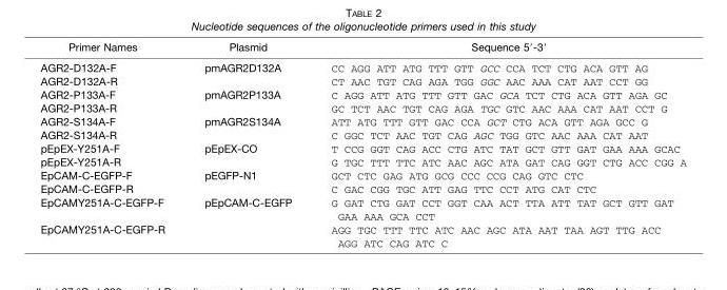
<table><thead><tr><td>Primer Names</td><td>Plasmid</td><td>Sequence 5′-3′</td></tr></thead><tbody><tr><td>AGR2-D132A-F</td><td>pmAGR2D132A</td><td>CC AGG ATT ATG TTT GTT GCC CCA TCT CTG ACA GTT AG</td></tr><tr><td>AGR2-D132A-R</td><td></td><td>CT AAC TGT CAG AGA TGG GGC AAC AAA CAT AAT CCT GG</td></tr><tr><td>AGR2-P133A-F</td><td>pmAGR2P133A</td><td>C AGG ATT ATG TTT GTT GAC GCA TCT CTG ACA GTT AGA GC</td></tr><tr><td>AGR2-P133A-R</td><td></td><td>GC TCT AAC TGT CAG AGA TGC GTC AAC AAA CAT AAT CCT G</td></tr><tr><td>AGR2-S134A-F</td><td>pmAGR2S134A</td><td>ATT ATG TTT GTT GAC CCA GCT CTG ACA GTT AGA GCC G</td></tr><tr><td>AGR2-S134A-R</td><td></td><td>C GGC TCT AAC TGT CAG AGC TGG GTC AAC AAA CAT AAT</td></tr><tr><td>pEpEX-Y251A-F</td><td>pEpEX-CO</td><td>T CCG GGT CAG ACC CTG ATC TAT GCT GTT GAT GAA AAA GCAC</td></tr><tr><td>pEpEX-Y251A-R</td><td></td><td>G TGC TTT TTC ATC AAC AGC ATA GAT CAG GGT CTG ACC CGG A</td></tr><tr><td>EpCAM-C-EGFP-F</td><td>pEGFP-N1</td><td>GCT CTC GAG ATG GCG CCC CCG CAG GTC CTC</td></tr><tr><td>EpCAM-C-EGFP-R</td><td></td><td>C GAC CGG TGC ATT GAG TTC CCT ATG CAT CTC</td></tr><tr><td>EpCAMY251A-C-EGFP-F</td><td>pEpCAM-C-EGFP</td><td>G GAT CTG GAT CCT GGT CAA ACT TTA ATT TAT GCT GTT GAT GAA AAA GCA CCT</td></tr><tr><td>EpCAMY251A-C-EGFP-R</td><td></td><td>AGG TGC TTT TTC ATC AAC AGC ATA AAT TAA AGT TTG ACC AGG ATC CAG ATC C</td></tr></tbody></table>